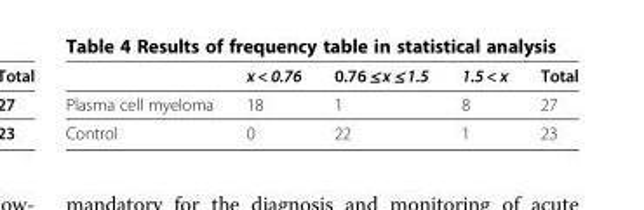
<table><thead><tr><td></td><td>x &lt; 0.76</td><td>0.76 ≤ x ≤ 1.5</td><td>1.5 &lt; x</td><td>Total</td></tr></thead><tbody><tr><td>Plasma cell myeloma</td><td>18</td><td>1</td><td>8</td><td>27</td></tr><tr><td>Control</td><td>0</td><td>22</td><td>1</td><td>23</td></tr></tbody></table>